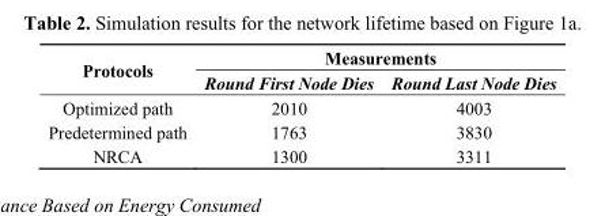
<table><thead><tr><td rowspan="2">Protocols</td><td colspan="2">Measurements</td></tr><tr><td>Round First Node Dies</td><td>Round Last Node Dies</td></tr></thead><tbody><tr><td>Optimized path</td><td>2010</td><td>4003</td></tr><tr><td>Predetermined path</td><td>1763</td><td>3830</td></tr><tr><td>NRCA</td><td>1300</td><td>3311</td></tr></tbody></table>